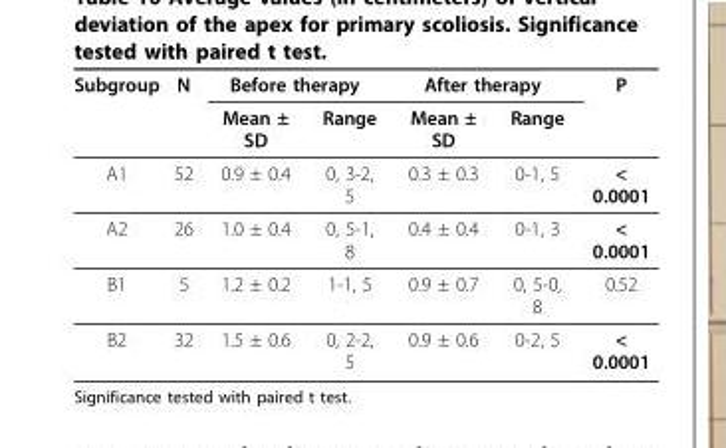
<table><thead><tr><td rowspan="2">Subgroup</td><td rowspan="2">N</td><td colspan="2">Before therapy</td><td colspan="2">After therapy</td><td rowspan="2">P</td></tr><tr><td>Mean ± SD</td><td>Range</td><td>Mean ± SD</td><td>Range</td></tr></thead><tbody><tr><td>A1</td><td>52</td><td>0.9 ± 0.4</td><td>0, 3-2, 5</td><td>0.3 ± 0.3</td><td>0-1, 5</td><td>&lt; 0.0001</td></tr><tr><td>A2</td><td>26</td><td>1.0 ± 0.4</td><td>0, 5-1, 8</td><td>0.4 ± 0.4</td><td>0-1, 3</td><td>&lt; 0.0001</td></tr><tr><td>B1</td><td>5</td><td>1.2 ± 0.2</td><td>1-1, 5</td><td>0.9 ± 0.7</td><td>0, 5-0, 8</td><td>0.52</td></tr><tr><td>B2</td><td>32</td><td>1.5 ± 0.6</td><td>0, 2-2, 5</td><td>0.9 ± 0.6</td><td>0-2, 5</td><td>&lt; 0.0001</td></tr></tbody></table>